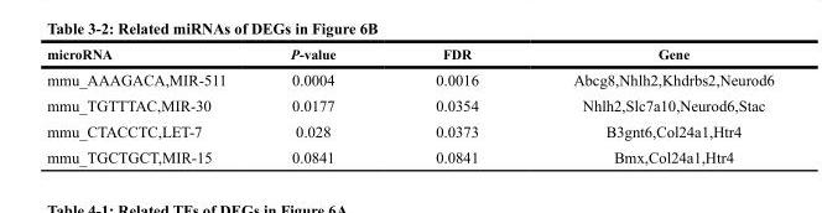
<table><thead><tr><td>micrornA</td><td>P-value</td><td>Fdr</td><td>Gene</td></tr></thead><tbody><tr><td>mmu_AAAGACA,MIR-511</td><td>0.0004</td><td>0.0016</td><td>Abcg8,Nhlh2,Khdrbs2,Neurod6</td></tr><tr><td>mmu_TGTTTAC,MIR-30</td><td>0.0177</td><td>0.0354</td><td>Nhlh2,Slc7a10,Neurod6,Stac</td></tr><tr><td>mmu_CTACCTC,LET-7</td><td>0.028</td><td>0.0373</td><td>B3gnt6,Col24a1,Htr4</td></tr><tr><td>mmu_TGCTGCT,MIR-15</td><td>0.0841</td><td>0.0841</td><td>Bmx,Col24a1,Htr4</td></tr></tbody></table>